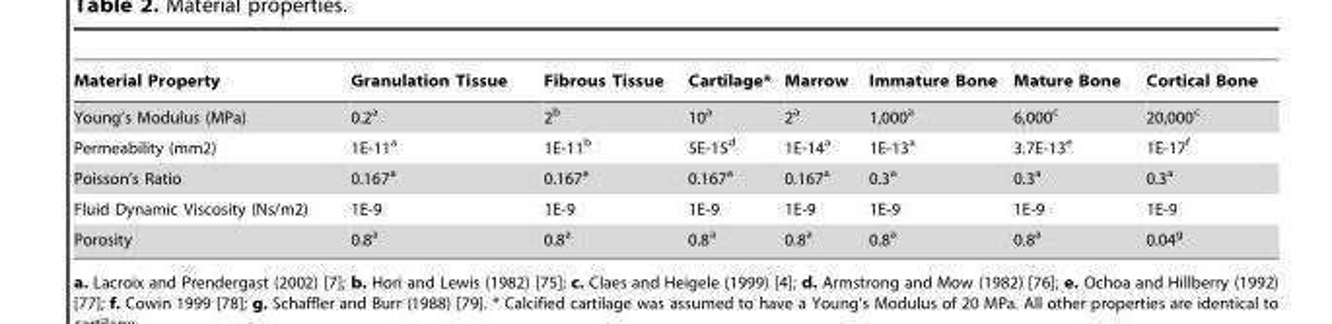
<table><thead><tr><td>Material Property</td><td>Granulation Tissue</td><td>Fibrous Tissue</td><td>Cartilage*</td><td>Marrow</td><td>Immature Bone</td><td>Mature Bone</td><td>Cortical Bone</td></tr></thead><tbody><tr><td>Young’s Modulus (MPa)</td><td>0.2<sup>a</sup></td><td>2<sup>b</sup></td><td>10<sup>a</sup></td><td>2<sup>a</sup></td><td>1,000<sup>a</sup></td><td>6,000<sup>c</sup></td><td>20,000<sup>c</sup></td></tr><tr><td>Permeability (mm2)</td><td>1E-11<sup>a</sup></td><td>1E-11<sup>b</sup></td><td>5E-15<sup>d</sup></td><td>1E-14<sup>a</sup></td><td>1E-13<sup>a</sup></td><td>3.7E-13<sup>e</sup></td><td>1E-17<sup>f</sup></td></tr><tr><td>Poisson’s Ratio</td><td>0.167<sup>a</sup></td><td>0.167<sup>a</sup></td><td>0.167<sup>a</sup></td><td>0.167<sup>a</sup></td><td>0.3<sup>a</sup></td><td>0.3<sup>a</sup></td><td>0.3<sup>a</sup></td></tr><tr><td>Fluid Dynamic Viscosity (Ns/m2)</td><td>1E-9</td><td>1E-9</td><td>1E-9</td><td>1E-9</td><td>1E-9</td><td>1E-9</td><td>1E-9</td></tr><tr><td>Porosity</td><td>0.8<sup>a</sup></td><td>0.8<sup>a</sup></td><td>0.8<sup>a</sup></td><td>0.8<sup>a</sup></td><td>0.8<sup>a</sup></td><td>0.8<sup>a</sup></td><td>0.04<sup>g</sup></td></tr></tbody></table>